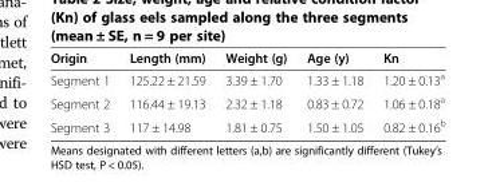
<table><thead><tr><td>Origin</td><td>Length (mm)</td><td>Weight (g)</td><td>Age (y)</td><td>Kn</td></tr></thead><tbody><tr><td>Segment 1</td><td>125.22 ± 21.59</td><td>3.39 ± 1.70</td><td>1.33 ± 1.18</td><td>1.20 ± 0.13<sup>a</sup></td></tr><tr><td>Segment 2</td><td>116.44 ± 19.13</td><td>2.32 ± 1.18</td><td>0.83 ± 0.72</td><td>1.06 ± 0.18<sup>a</sup></td></tr><tr><td>Segment 3</td><td>117 ± 14.98</td><td>1.81 ± 0.75</td><td>1.50 ± 1.05</td><td>0.82 ± 0.16<sup>b</sup></td></tr></tbody></table>